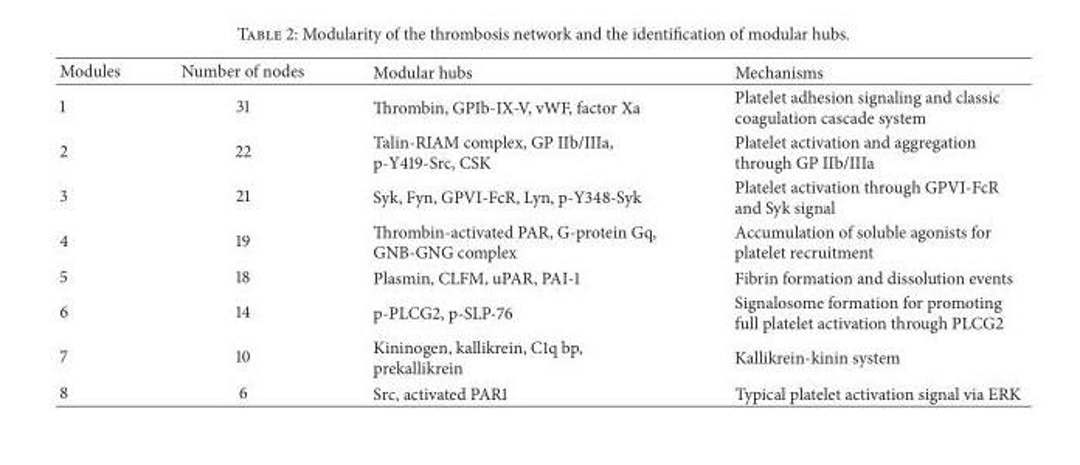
<table><thead><tr><td>Modules</td><td>Number of nodes</td><td>Modular hubs</td><td>Mechanisms</td></tr></thead><tbody><tr><td>1</td><td>31</td><td>Thrombin, GPIb-IX-V, vWF, factor Xa</td><td>Platelet adhesion signaling and classic coagulation cascade system</td></tr><tr><td>2</td><td>22</td><td>Talin-RIAM complex, GP IIb/IIIa, p-Y419-Src, CSK</td><td>Platelet activation and aggregation through GP IIb/IIIa</td></tr><tr><td>3</td><td>21</td><td>Syk, Fyn, GPVI-FcR, Lyn, p-Y348-Syk</td><td>Platelet activation through GPVI-FcR and Syk signal</td></tr><tr><td>4</td><td>19</td><td>Thrombin-activated PAR, G-protein Gq, GNB-GNG complex</td><td>Accumulation of soluble agonists for platelet recruitment</td></tr><tr><td>5</td><td>18</td><td>Plasmin, CLFM, uPAR, PAI-1</td><td>Fibrin formation and dissolution events</td></tr><tr><td>6</td><td>14</td><td>p-PLCG2, p-SLP-76</td><td>Signalosome formation for promoting full platelet activation through PLCG2</td></tr><tr><td>7</td><td>10</td><td>Kininogen, kallikrein, C1q bp, prekallikrein</td><td>Kallikrein-kinin system</td></tr><tr><td>8</td><td>6</td><td>Src, activated PAR1</td><td>Typical platelet activation signal via ERK</td></tr></tbody></table>